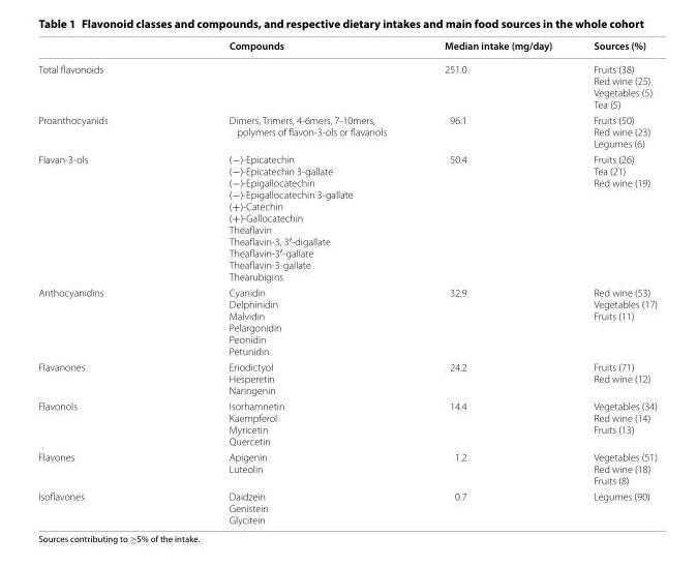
<table><thead><tr><td></td><td>Compounds</td><td>Median intake (mg/day)</td><td>Sources (%)</td></tr></thead><tbody><tr><td>Total flavonoids</td><td></td><td>251.0</td><td>Fruits (38) Red wine (25) Vegetables (5) Tea (5)</td></tr><tr><td>Proanthocyanids</td><td>Dimers, Trimers, 4-6mers, 7-10mers, polymers of flavon-3-ols or flavanols</td><td>96.1</td><td>Fruits (50) Red wine (23) Legumes (6)</td></tr><tr><td>Flavan-3-ols</td><td>(−)-Epicatechin (−)-Epicatechin 3-gallate (−)-Epigallocatechin (−)-Epigallocatechin 3-gallate (+)-Catechin (+)-Gallocatechin Theaflavin Theaflavin-3, 3′-digallate Theaflavin-3′-gallate Theaflavin-3-gallate Thearubigins</td><td>50.4</td><td>Fruits (26) Tea (21) Red wine (19)</td></tr><tr><td>Anthocyanidins</td><td>Cyanidin Delphinidin Malvidin Pelargonidin Peonidin Petunidin</td><td>32.9</td><td>Red wine (53) Vegetables (17) Fruits (11)</td></tr><tr><td>Flavanones</td><td>Eriodictyol Hesperetin Naringenin</td><td>24.2</td><td>Fruits (71) Red wine (12)</td></tr><tr><td>Flavonols</td><td>Isorhamnetin Kaempferol Myricetin Quercetin</td><td>14.4</td><td>Vegetables (34) Red wine (14) Fruits (13)</td></tr><tr><td>Flavones</td><td>Apigenin Luteolin</td><td>1.2</td><td>Vegetables (51) Red wine (18) Fruits (8)</td></tr><tr><td>Isoflavones</td><td>Daidzein Genistein Glycitein</td><td>0.7</td><td>Legumes (90)</td></tr></tbody></table>